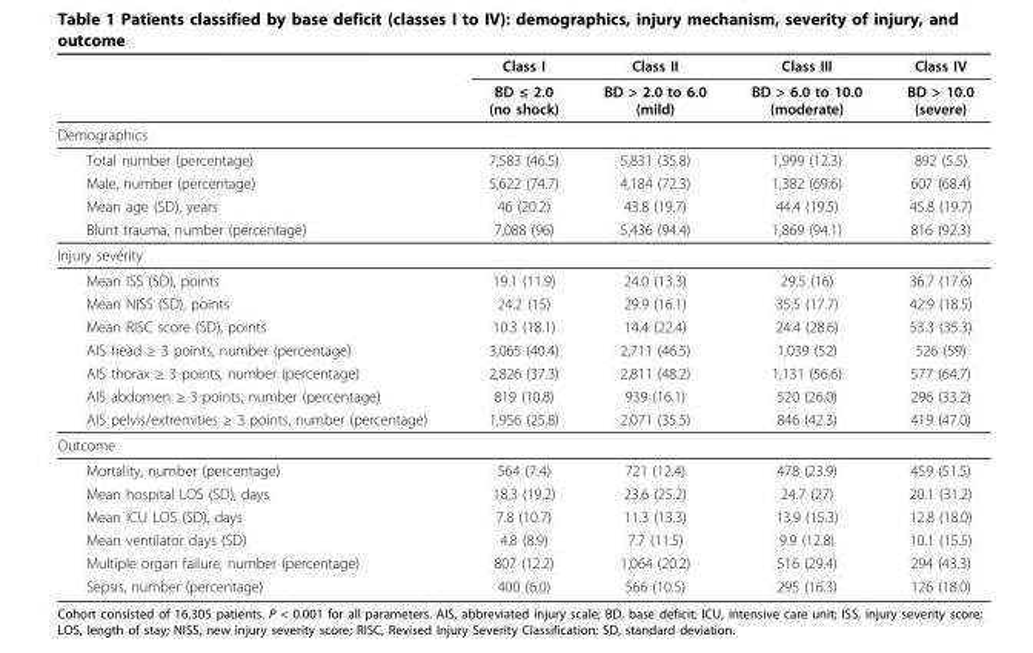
<table><thead><tr><td rowspan="2"></td><td rowspan="2">Class I BD ≤ 2.0 (no shock)</td><td rowspan="2">Class II BD &gt; 2.0 to 6.0 (mild)</td><td rowspan="2">Class III BD &gt; 6.0 to 10.0 (moderate)</td><td rowspan="2">Class IV BD &gt; 10.0 (severe)</td></tr><tr></tr></thead><tbody><tr><td colspan="5">Demographics</td></tr><tr><td>Total number (percentage)</td><td>7,583 (46.5)</td><td>5,831 (35.8)</td><td>1,999 (12.3)</td><td>892 (5.5)</td></tr><tr><td>Male, number (percentage)</td><td>5,622 (74.7)</td><td>4,184 (72.3)</td><td>1,382 (69.6)</td><td>607 (68.4)</td></tr><tr><td>Mean age (SD), years</td><td>46 (20.2)</td><td>43.8 (19.7)</td><td>44.4 (19.5)</td><td>45.8 (19.7)</td></tr><tr><td>Blunt trauma, number (percentage)</td><td>7,088 (96)</td><td>5,436 (94.4)</td><td>1,869 (94.1)</td><td>816 (92.3)</td></tr><tr><td colspan="5">Injury severity</td></tr><tr><td>Mean ISS (SD), points</td><td>19.1 (11.9)</td><td>24.0 (13.3)</td><td>29.5 (16)</td><td>36.7 (17.6)</td></tr><tr><td>Mean NISS (SD), points</td><td>24.2 (15)</td><td>29.9 (16.1)</td><td>35.5 (17.7)</td><td>42.9 (18.5)</td></tr><tr><td>Mean RISC score (SD), points</td><td>10.3 (18.1)</td><td>14.4 (22.4)</td><td>24.4 (28.6)</td><td>53.3 (35.3)</td></tr><tr><td>AIS head ≥ 3 points, number (percentage)</td><td>3,065 (40.4)</td><td>2,711 (46.5)</td><td>1,039 (52)</td><td>526 (59)</td></tr><tr><td>AIS thorax ≥ 3 points, number (percentage)</td><td>2,826 (37.3)</td><td>2,811 (48.2)</td><td>1,131 (56.6)</td><td>577 (64.7)</td></tr><tr><td>AIS abdomen ≥ 3 points, number (percentage)</td><td>819 (10.8)</td><td>939 (16.1)</td><td>520 (26.0)</td><td>296 (33.2)</td></tr><tr><td>AIS pelvis/extremities ≥ 3 points, number (percentage)</td><td>1,956 (25.8)</td><td>2,071 (35.5)</td><td>846 (42.3)</td><td>419 (47.0)</td></tr><tr><td colspan="5">Outcome</td></tr><tr><td>Mortality, number (percentage)</td><td>564 (7.4)</td><td>721 (12.4)</td><td>478 (23.9)</td><td>459 (51.5)</td></tr><tr><td>Mean hospital LOS (SD), days</td><td>18,3 (19.2)</td><td>23.6 (25.2)</td><td>24.7 (27)</td><td>20.1 (31.2)</td></tr><tr><td>Mean ICU LOS (SD), days</td><td>7.8 (10.7)</td><td>11.3 (13.3)</td><td>13.9 (15.3)</td><td>12.8 (18.0)</td></tr><tr><td>Mean ventilator days (SD)</td><td>4.8 (8.9)</td><td>7.7 (11.5)</td><td>9.9 (12.8)</td><td>10.1 (15.5)</td></tr><tr><td>Multiple organ failure, number (percentage)</td><td>807 (12.2)</td><td>1,064 (20.2)</td><td>516 (29.4)</td><td>294 (43.3)</td></tr><tr><td>Sepsis, number (percentage)</td><td>400 (6.0)</td><td>566 (10.5)</td><td>295 (16.3)</td><td>126 (18.0)</td></tr></tbody></table>